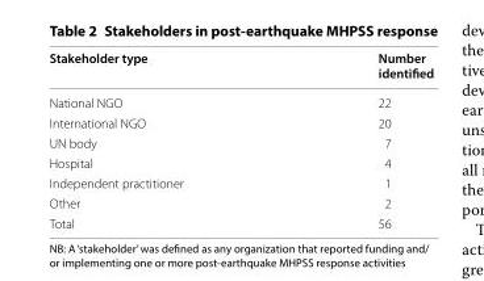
<table><thead><tr><td>Stakeholder type</td><td>Number identified</td></tr></thead><tbody><tr><td>National NGO</td><td>22</td></tr><tr><td>International NGO</td><td>20</td></tr><tr><td>UN body</td><td>7</td></tr><tr><td>Hospital</td><td>4</td></tr><tr><td>Independent practitioner</td><td>1</td></tr><tr><td>Other</td><td>2</td></tr><tr><td>Total</td><td>56</td></tr></tbody></table>